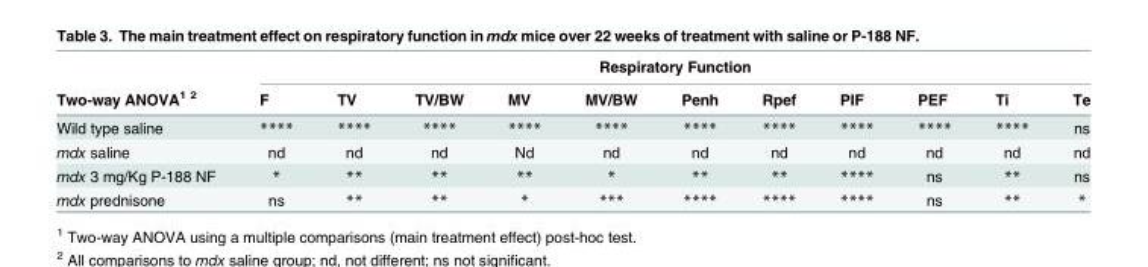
<table><thead><tr><td rowspan="2">Two-way ANOVA<sup>1 2</sup></td><td colspan="11">Respiratory Function</td></tr><tr><td>F</td><td>TV</td><td>TV/BW</td><td>MV</td><td>MV/BW</td><td>Penh</td><td>Rpef</td><td>PIF</td><td>PEF</td><td>Ti</td><td>Te</td></tr></thead><tbody><tr><td>Wild type saline</td><td>****</td><td>****</td><td>****</td><td>****</td><td>****</td><td>****</td><td>****</td><td>****</td><td>****</td><td>****</td><td>ns</td></tr><tr><td>mdx saline</td><td>nd</td><td>nd</td><td>nd</td><td>Nd</td><td>nd</td><td>nd</td><td>nd</td><td>nd</td><td>nd</td><td>nd</td><td>nd</td></tr><tr><td>mdx 3 mg/Kg P-188 NF</td><td>*</td><td>**</td><td>**</td><td>**</td><td>*</td><td>**</td><td>**</td><td>****</td><td>ns</td><td>**</td><td>ns</td></tr><tr><td>mdx prednisone</td><td>ns</td><td>**</td><td>**</td><td>*</td><td>***</td><td>****</td><td>****</td><td>****</td><td>ns</td><td>**</td><td>*</td></tr></tbody></table>